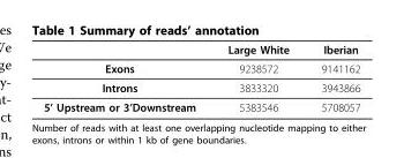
<table><thead><tr><td></td><td>Large White</td><td>Iberian</td></tr></thead><tbody><tr><td>Exons</td><td>9238572</td><td>9141162</td></tr><tr><td>Introns</td><td>3833320</td><td>3943866</td></tr><tr><td>5’ Upstream or 3’Downstream</td><td>5383546</td><td>5708057</td></tr></tbody></table>